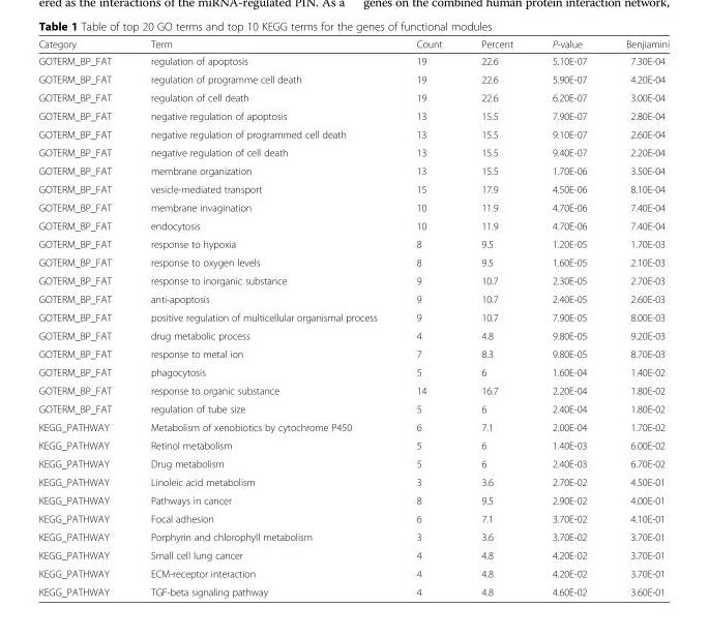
<table><thead><tr><td>Category</td><td>Term</td><td>Count</td><td>Percent</td><td>P-value</td><td>Benjiamini</td></tr></thead><tbody><tr><td>GOTERM_BP_FAT</td><td>regulation of apoptosis</td><td>19</td><td>22.6</td><td>5.10E-07</td><td>7.30E-04</td></tr><tr><td>GOTERM_BP_FAT</td><td>regulation of programme cell death</td><td>19</td><td>22.6</td><td>5.90E-07</td><td>4.20E-04</td></tr><tr><td>GOTERM_BP_FAT</td><td>regulation of cell death</td><td>19</td><td>22.6</td><td>6.20E-07</td><td>3.00E-04</td></tr><tr><td>GOTERM_BP_FAT</td><td>negative regulation of apoptosis</td><td>13</td><td>15.5</td><td>7.90E-07</td><td>2.80E-04</td></tr><tr><td>GOTERM_BP_FAT</td><td>negative regulation of programmed cell death</td><td>13</td><td>15.5</td><td>9.10E-07</td><td>2.60E-04</td></tr><tr><td>GOTERM_BP_FAT</td><td>negative regulation of cell death</td><td>13</td><td>15.5</td><td>9.40E-07</td><td>2.20E-04</td></tr><tr><td>GOTERM_BP_FAT</td><td>membrane organization</td><td>13</td><td>15.5</td><td>1.70E-06</td><td>3.50E-04</td></tr><tr><td>GOTERM_BP_FAT</td><td>vesicle-mediated transport</td><td>15</td><td>17.9</td><td>4.50E-06</td><td>8.10E-04</td></tr><tr><td>GOTERM_BP_FAT</td><td>membrane invagination</td><td>10</td><td>11.9</td><td>4.70E-06</td><td>7.40E-04</td></tr><tr><td>GOTERM_BP_FAT</td><td>endocytosis</td><td>10</td><td>11.9</td><td>4.70E-06</td><td>7.40E-04</td></tr><tr><td>GOTERM_BP_FAT</td><td>response to hypoxia</td><td>8</td><td>9.5</td><td>1.20E-05</td><td>1.70E-03</td></tr><tr><td>GOTERM_BP_FAT</td><td>response to oxygen levels</td><td>8</td><td>9.5</td><td>1.60E-05</td><td>2.10E-03</td></tr><tr><td>GOTERM_BP_FAT</td><td>response to inorganic substance</td><td>9</td><td>10.7</td><td>2.30E-05</td><td>2.70E-03</td></tr><tr><td>GOTERM_BP_FAT</td><td>anti-apoptosis</td><td>9</td><td>10.7</td><td>2.40E-05</td><td>2.60E-03</td></tr><tr><td>GOTERM_BP_FAT</td><td>positive regulation of multicellular organismal process</td><td>9</td><td>10.7</td><td>7.90E-05</td><td>8.00E-03</td></tr><tr><td>GOTERM_BP_FAT</td><td>drug metabolic process</td><td>4</td><td>4.8</td><td>9.80E-05</td><td>9.20E-03</td></tr><tr><td>GOTERM_BP_FAT</td><td>response to metal ion</td><td>7</td><td>8.3</td><td>9.80E-05</td><td>8.70E-03</td></tr><tr><td>GOTERM_BP_FAT</td><td>phagocytosis</td><td>5</td><td>6</td><td>1.60E-04</td><td>1.40E-02</td></tr><tr><td>GOTERM_BP_FAT</td><td>response to organic substance</td><td>14</td><td>16.7</td><td>2.20E-04</td><td>1.80E-02</td></tr><tr><td>GOTERM_BP_FAT</td><td>regulation of tube size</td><td>5</td><td>6</td><td>2.40E-04</td><td>1.80E-02</td></tr><tr><td>KEGG_PATHWAY</td><td>Metabolism of xenobiotics by cytochrome P450</td><td>6</td><td>7.1</td><td>2.00E-04</td><td>1.70E-02</td></tr><tr><td>KEGG_PATHWAY</td><td>Retinol metabolism</td><td>5</td><td>6</td><td>1.40E-03</td><td>6.00E-02</td></tr><tr><td>KEGG_PATHWAY</td><td>Drug metabolism</td><td>5</td><td>6</td><td>2.40E-03</td><td>6.70E-02</td></tr><tr><td>KEGG_PATHWAY</td><td>Linoleic acid metabolism</td><td>3</td><td>3.6</td><td>2.70E-02</td><td>4.50E-01</td></tr><tr><td>KEGG_PATHWAY</td><td>Pathways in cancer</td><td>8</td><td>9.5</td><td>2.90E-02</td><td>4.00E-01</td></tr><tr><td>KEGG_PATHWAY</td><td>Focal adhesion</td><td>6</td><td>7.1</td><td>3.70E-02</td><td>4.10E-01</td></tr><tr><td>KEGG_PATHWAY</td><td>Porphyrin and chlorophyll metabolism</td><td>3</td><td>3.6</td><td>3.70E-02</td><td>3.70E-01</td></tr><tr><td>KEGG_PATHWAY</td><td>Small cell lung cancer</td><td>4</td><td>4.8</td><td>4.20E-02</td><td>3.70E-01</td></tr><tr><td>KEGG_PATHWAY</td><td>ECM-receptor interaction</td><td>4</td><td>4.8</td><td>4.20E-02</td><td>3.70E-01</td></tr><tr><td>KEGG_PATHWAY</td><td>TGF-beta signaling pathway</td><td>4</td><td>4.8</td><td>4.60E-02</td><td>3.60E-01</td></tr></tbody></table>